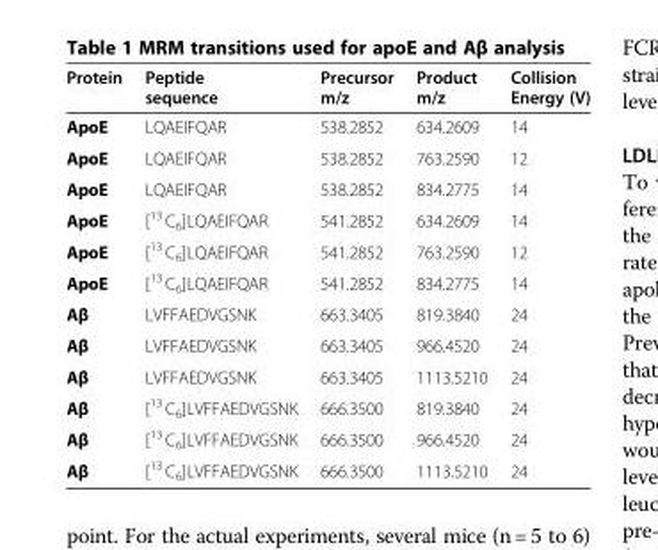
<table><thead><tr><td>Protein</td><td>Peptide sequence</td><td>Precursor m/z</td><td>Product m/z</td><td>Collision Energy (V)</td></tr></thead><tbody><tr><td>ApoE</td><td>LQAEIFQAR</td><td>538.2852</td><td>634.2609</td><td>14</td></tr><tr><td>ApoE</td><td>LQAEIFQAR</td><td>538.2852</td><td>763.2590</td><td>12</td></tr><tr><td>ApoE</td><td>LQAEIFQAR</td><td>538.2852</td><td>834.2775</td><td>14</td></tr><tr><td>ApoE</td><td>[<sup>13</sup> C<sub>6</sub>]LQAEIFQAR</td><td>541.2852</td><td>634.2609</td><td>14</td></tr><tr><td>ApoE</td><td>[<sup>13</sup> C<sub>6</sub>]LQAEIFQAR</td><td>541.2852</td><td>763.2590</td><td>12</td></tr><tr><td>ApoE</td><td>[<sup>13</sup> C<sub>6</sub>]LQAEIFQAR</td><td>541.2852</td><td>834.2775</td><td>14</td></tr><tr><td>Aβ</td><td>LVFFAEDVGSNK</td><td>663.3405</td><td>819.3840</td><td>24</td></tr><tr><td>Aβ</td><td>LVFFAEDVGSNK</td><td>663.3405</td><td>966.4520</td><td>24</td></tr><tr><td>Aβ</td><td>LVFFAEDVGSNK</td><td>663.3405</td><td>1113.5210</td><td>24</td></tr><tr><td>Aβ</td><td>[<sup>13</sup> C<sub>6</sub>]LVFFAEDVGSNK</td><td>666.3500</td><td>819.3840</td><td>24</td></tr><tr><td>Aβ</td><td>[<sup>13</sup> C<sub>6</sub>]LVFFAEDVGSNK</td><td>666.3500</td><td>966.4520</td><td>24</td></tr><tr><td>Aβ</td><td>[<sup>13</sup> C<sub>6</sub>]LVFFAEDVGSNK</td><td>666.3500</td><td>1113.5210</td><td>24</td></tr></tbody></table>